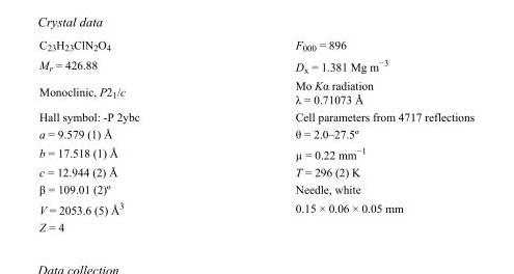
<table><tbody><tr><td>C<sub>23</sub>H<sub>23</sub>ClN<sub>2</sub>O<sub>4</sub></td><td>F000 = 896</td></tr><tr><td>M<sub>r</sub> = 426.88</td><td>D<sub>x</sub> = 1.381 Mg m<sup>−3</sup></td></tr><tr><td>Monoclinic, P2<sub>1</sub>/c</td><td>Mo Kα radiation λ = 0.71073 Å</td></tr><tr><td>Hall symbol: -P 2ybc</td><td>Cell parameters from 4717 reflections</td></tr><tr><td>a = 9.579 (1) Å</td><td>θ = 2.0–27.5º</td></tr><tr><td>b = 17.518 (1) Å</td><td>µ = 0.22 mm<sup>−1</sup></td></tr><tr><td>c = 12.944 (2) Å</td><td>T = 296 (2) K</td></tr><tr><td>β = 109.01 (2)º</td><td>Needle, white</td></tr><tr><td>V = 2053.6 (5) Å<sup>3</sup></td><td>0.15 × 0.06 × 0.05 mm</td></tr><tr><td>Z = 4</td><td></td></tr></tbody></table>